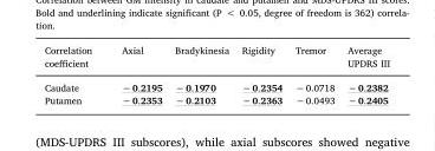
<table><thead><tr><td>Correlation coefficient</td><td>Axial</td><td>Bradykinesia</td><td>Rigidity</td><td>Tremor</td><td>Average UPDRS III</td></tr></thead><tbody><tr><td>Caudate</td><td>−0.2195</td><td>−0.1970</td><td>−0.2354</td><td>−0.0718</td><td>−0.2382</td></tr><tr><td>Putamen</td><td>−0.2353</td><td>−0.2103</td><td>−0.2363</td><td>−0.0493</td><td>−0.2405</td></tr></tbody></table>